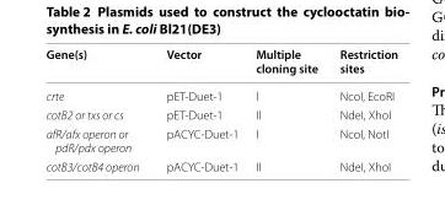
<table><thead><tr><td>Gene(s)</td><td>Vector</td><td>Multiple cloning site</td><td>Restriction sites</td></tr></thead><tbody><tr><td>crte</td><td>pET-Duet-1</td><td>I</td><td>NcoI, EcoRI</td></tr><tr><td>cotB2 or txs or cs</td><td>pET-Duet-1</td><td>II</td><td>NdeI, XhoI</td></tr><tr><td>afR/afx operon or pdR/pdx operon</td><td>pACYC-Duet-1</td><td>I</td><td>NcoI, NotI</td></tr><tr><td>cotB3/cotB4 operon</td><td>pACYC-Duet-1</td><td>II</td><td>NdeI, XhoI</td></tr></tbody></table>